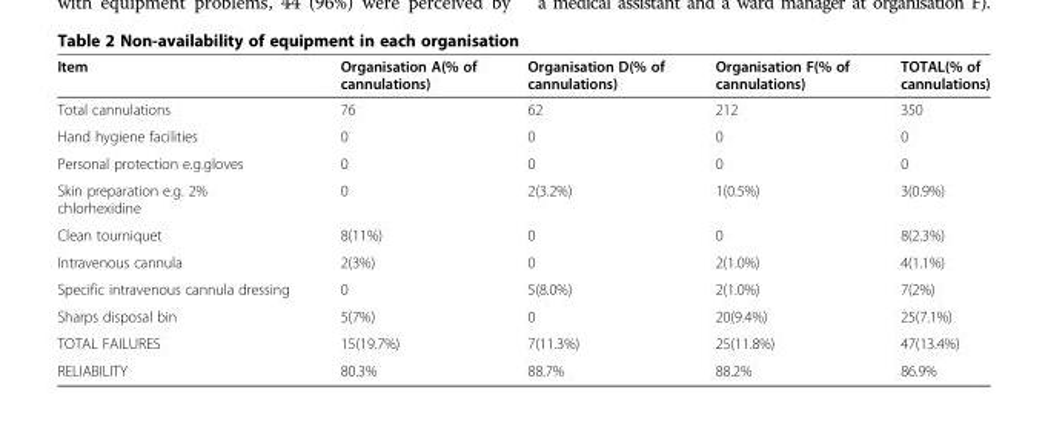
<table><thead><tr><td>Item</td><td>Organisation A(% of cannulations)</td><td>Organisation D(% of cannulations)</td><td>Organisation F(% of cannulations)</td><td>TOTAL(% of cannulations)</td></tr></thead><tbody><tr><td>Total cannulations</td><td>76</td><td>62</td><td>212</td><td>350</td></tr><tr><td>Hand hygiene facilities</td><td>0</td><td>0</td><td>0</td><td>0</td></tr><tr><td>Personal protection e.g.gloves</td><td>0</td><td>0</td><td>0</td><td>0</td></tr><tr><td>Skin preparation e.g. 2% chlorhexidine</td><td>0</td><td>2(3.2%)</td><td>1(0.5%)</td><td>3(0.9%)</td></tr><tr><td>Clean tourniquet</td><td>8(11%)</td><td>0</td><td>0</td><td>8(2.3%)</td></tr><tr><td>Intravenous cannula</td><td>2(3%)</td><td>0</td><td>2(1.0%)</td><td>4(1.1%)</td></tr><tr><td>Specific intravenous cannula dressing</td><td>0</td><td>5(8.0%)</td><td>2(1.0%)</td><td>7(2%)</td></tr><tr><td>Sharps disposal bin</td><td>5(7%)</td><td>0</td><td>20(9.4%)</td><td>25(7.1%)</td></tr><tr><td>TOTAL FAILURES</td><td>15(19.7%)</td><td>7(11.3%)</td><td>25(11.8%)</td><td>47(13.4%)</td></tr><tr><td>RELIABILITY</td><td>80.3%</td><td>88.7%</td><td>88.2%</td><td>86.9%</td></tr></tbody></table>